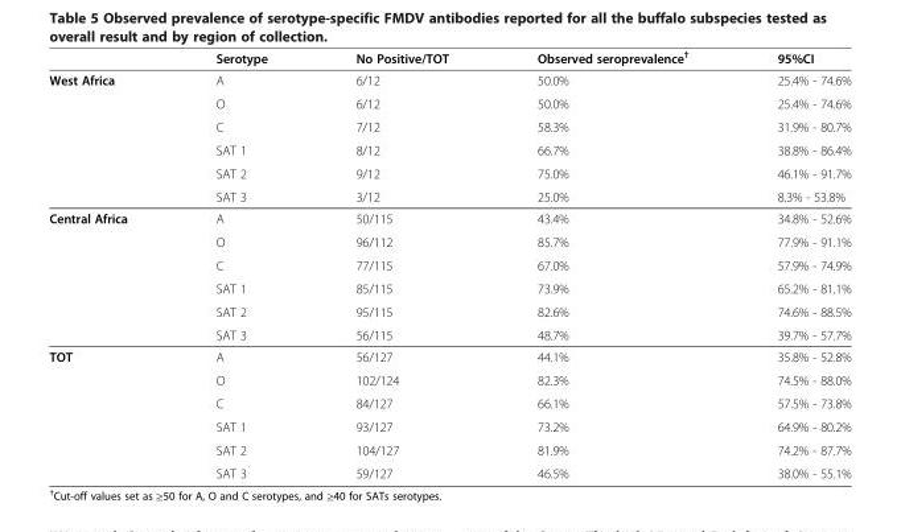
<table><thead><tr><td></td><td>Serotype</td><td>No Positive/TOT</td><td>Observed seroprevalence<sup>†</sup></td><td>95%CI</td></tr></thead><tbody><tr><td rowspan="6">West Africa</td><td>A</td><td>6/12</td><td>50.0%</td><td>25.4% - 74.6%</td></tr><tr><td>O</td><td>6/12</td><td>50.0%</td><td>25.4% - 74.6%</td></tr><tr><td>C</td><td>7/12</td><td>58.3%</td><td>31.9% - 80.7%</td></tr><tr><td>SAT 1</td><td>8/12</td><td>66.7%</td><td>38.8% - 86.4%</td></tr><tr><td>SAT 2</td><td>9/12</td><td>75.0%</td><td>46.1% - 91.7%</td></tr><tr><td>SAT 3</td><td>3/12</td><td>25.0%</td><td>8.3% - 53.8%</td></tr><tr><td rowspan="6">Central Africa</td><td>A</td><td>50/115</td><td>43.4%</td><td>34.8% - 52.6%</td></tr><tr><td>O</td><td>96/112</td><td>85.7%</td><td>77.9% - 91.1%</td></tr><tr><td>C</td><td>77/115</td><td>67.0%</td><td>57.9% - 74.9%</td></tr><tr><td>SAT 1</td><td>85/115</td><td>73.9%</td><td>65.2% - 81.1%</td></tr><tr><td>SAT 2</td><td>95/115</td><td>82.6%</td><td>74.6% - 88.5%</td></tr><tr><td>SAT 3</td><td>56/115</td><td>48.7%</td><td>39.7% - 57.7%</td></tr><tr><td rowspan="6">TOT</td><td>A</td><td>56/127</td><td>44.1%</td><td>35.8% - 52.8%</td></tr><tr><td>O</td><td>102/124</td><td>82.3%</td><td>74.5% - 88.0%</td></tr><tr><td>C</td><td>84/127</td><td>66.1%</td><td>57.5% - 73.8%</td></tr><tr><td>SAT 1</td><td>93/127</td><td>73.2%</td><td>64.9% - 80.2%</td></tr><tr><td>SAT 2</td><td>104/127</td><td>81.9%</td><td>74.2% - 87.7%</td></tr><tr><td>SAT 3</td><td>59/127</td><td>46.5%</td><td>38.0% - 55.1%</td></tr></tbody></table>